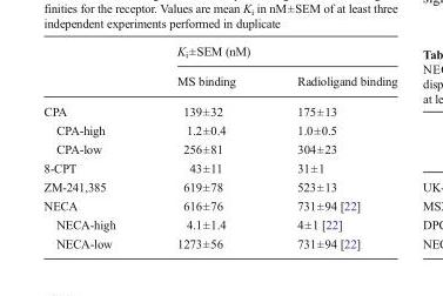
<table><thead><tr><td rowspan="2"></td><td colspan="2">K<sub>i</sub>±SEM (nM)</td></tr><tr><td>MS binding</td><td>Radioligand binding</td></tr></thead><tbody><tr><td>CPA</td><td>139±32</td><td>175±13</td></tr><tr><td>CPA-high</td><td>1.2±0.4</td><td>1.0±0.5</td></tr><tr><td>CPA-low</td><td>256±81</td><td>304±23</td></tr><tr><td>8-CPT</td><td>43±11</td><td>31±1</td></tr><tr><td>ZM-241,385</td><td>619±78</td><td>523±13</td></tr><tr><td>NECA</td><td>616±76</td><td>731±94 [22]</td></tr><tr><td>NECA-high</td><td>4.1±1.4</td><td>4±1 [22]</td></tr><tr><td>NECA-low</td><td>1273±56</td><td>731±94 [22]</td></tr></tbody></table>